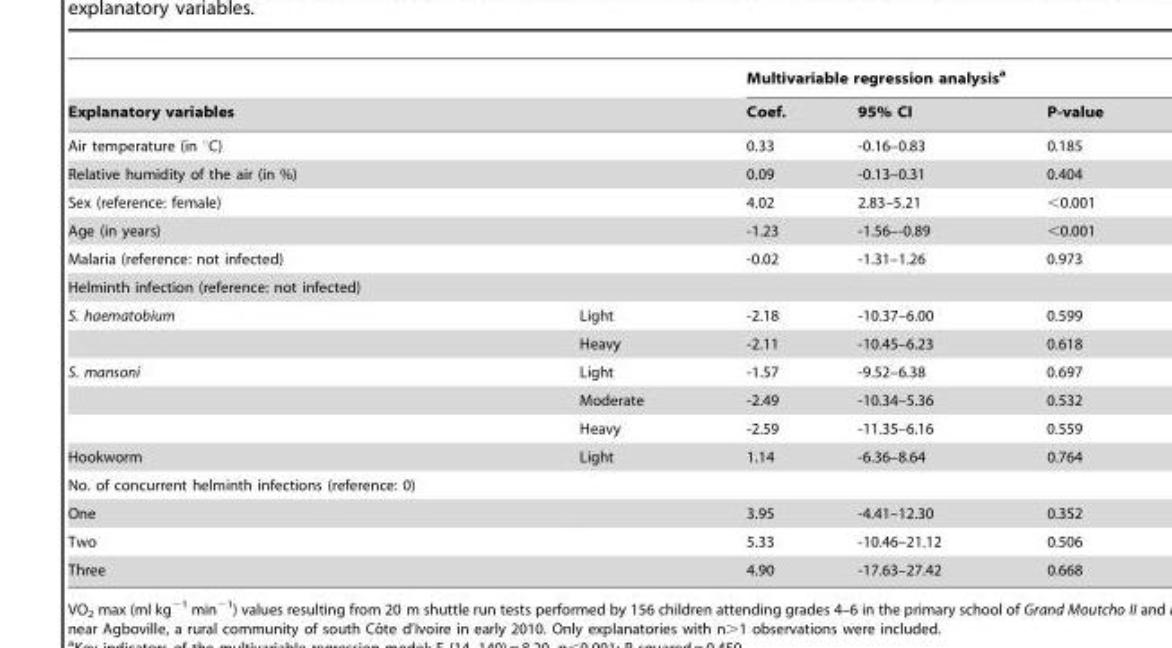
<table><thead><tr><td></td><td></td><td colspan="3">Multivariable regression analysis<sup>a</sup></td></tr><tr><td colspan="2">Explanatory variables</td><td>Coef.</td><td>95% CI</td><td>P-value</td></tr></thead><tbody><tr><td>Air temperature (in °C)</td><td></td><td>0.33</td><td>-0.16–0.83</td><td>0.185</td></tr><tr><td>Relative humidity of the air (in %)</td><td></td><td>0.09</td><td>-0.13–0.31</td><td>0.404</td></tr><tr><td>Sex (reference: female)</td><td></td><td>4.02</td><td>2.83–5.21</td><td>&lt;0.001</td></tr><tr><td>Age (in years)</td><td></td><td>-1.23</td><td>-1.56–-0.89</td><td>&lt;0.001</td></tr><tr><td>Malaria (reference: not infected)</td><td></td><td>-0.02</td><td>-1.31–1.26</td><td>0.973</td></tr><tr><td colspan="5">Helminth infection (reference: not infected)</td></tr><tr><td rowspan="2">S. haematobium</td><td>Light</td><td>-2.18</td><td>-10.37–6.00</td><td>0.599</td></tr><tr><td>Heavy</td><td>-2.11</td><td>-10.45–6.23</td><td>0.618</td></tr><tr><td rowspan="3">S. mansoni</td><td>Light</td><td>-1.57</td><td>-9.52–6.38</td><td>0.697</td></tr><tr><td>Moderate</td><td>-2.49</td><td>-10.34–5.36</td><td>0.532</td></tr><tr><td>Heavy</td><td>-2.59</td><td>-11.35–6.16</td><td>0.559</td></tr><tr><td>Hookworm</td><td>Light</td><td>1.14</td><td>-6.36–8.64</td><td>0.764</td></tr><tr><td colspan="5">No. of concurrent helminth infections (reference: 0)</td></tr><tr><td>One</td><td></td><td>3.95</td><td>-4.41–12.30</td><td>0.352</td></tr><tr><td>Two</td><td></td><td>5.33</td><td>-10.46–21.12</td><td>0.506</td></tr><tr><td>Three</td><td></td><td>4.90</td><td>-17.63–27.42</td><td>0.668</td></tr></tbody></table>